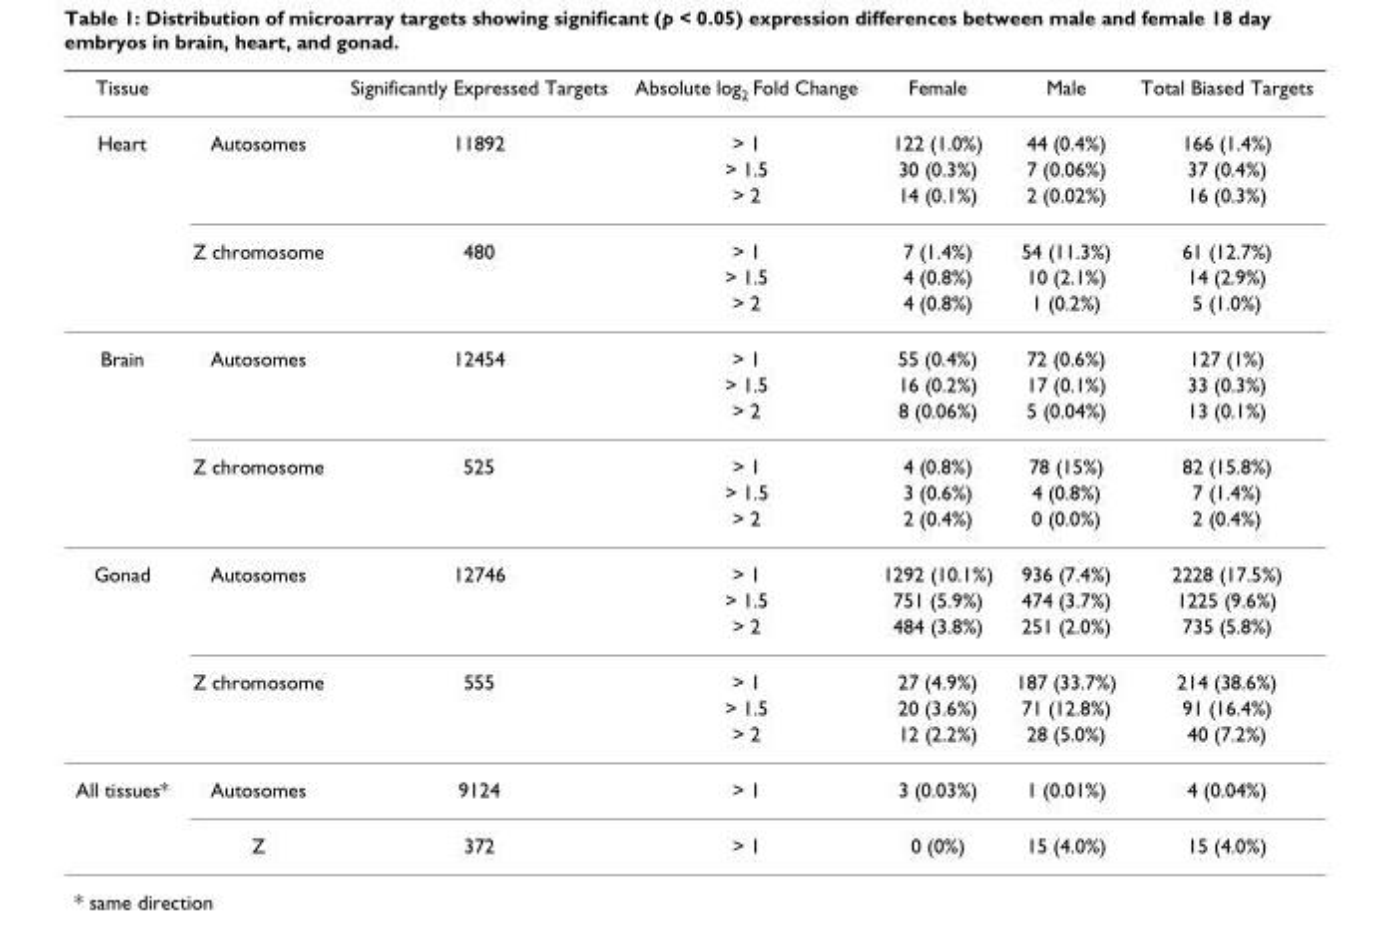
<table><thead><tr><td>Tissue</td><td></td><td>Significantly Expressed Targets</td><td>Absolute log<sub>2</sub> Fold Change</td><td>Female</td><td>Male</td><td>Total Biased Targets</td></tr></thead><tbody><tr><td rowspan="6">Heart</td><td>Autosomes</td><td>11892</td><td>&gt; 1</td><td>122 (1.0%)</td><td>44 (0.4%)</td><td>166 (1.4%)</td></tr><tr><td></td><td></td><td>&gt; 1.5</td><td>30 (0.3%)</td><td>7 (0.06%)</td><td>37 (0.4%)</td></tr><tr><td></td><td></td><td>&gt; 2</td><td>14 (0.1%)</td><td>2 (0.02%)</td><td>16 (0.3%)</td></tr><tr><td>Z chromosome</td><td>480</td><td>&gt; 1</td><td>7 (1.4%)</td><td>54 (11.3%)</td><td>61 (12.7%)</td></tr><tr><td></td><td></td><td>&gt; 1.5</td><td>4 (0.8%)</td><td>10 (2.1%)</td><td>14 (2.9%)</td></tr><tr><td></td><td></td><td>&gt; 2</td><td>4 (0.8%)</td><td>1 (0.2%)</td><td>5 (1.0%)</td></tr><tr><td rowspan="6">Brain</td><td>Autosomes</td><td>12454</td><td>&gt; 1</td><td>55 (0.4%)</td><td>72 (0.6%)</td><td>127 (1%)</td></tr><tr><td></td><td></td><td>&gt; 1.5</td><td>16 (0.2%)</td><td>17 (0.1%)</td><td>33 (0.3%)</td></tr><tr><td></td><td></td><td>&gt; 2</td><td>8 (0.06%)</td><td>5 (0.04%)</td><td>13 (0.1%)</td></tr><tr><td>Z chromosome</td><td>525</td><td>&gt; 1</td><td>4 (0.8%)</td><td>78 (15%)</td><td>82 (15.8%)</td></tr><tr><td></td><td></td><td>&gt; 1.5</td><td>3 (0.6%)</td><td>4 (0.8%)</td><td>7 (1.4%)</td></tr><tr><td></td><td></td><td>&gt; 2</td><td>2 (0.4%)</td><td>0 (0.0%)</td><td>2 (0.4%)</td></tr><tr><td rowspan="6">Gonad</td><td>Autosomes</td><td>12746</td><td>&gt; 1</td><td>1292 (10.1%)</td><td>936 (7.4%)</td><td>2228 (17.5%)</td></tr><tr><td></td><td></td><td>&gt; 1.5</td><td>751 (5.9%)</td><td>474 (3.7%)</td><td>1225 (9.6%)</td></tr><tr><td></td><td></td><td>&gt; 2</td><td>484 (3.8%)</td><td>251 (2.0%)</td><td>735 (5.8%)</td></tr><tr><td>Z chromosome</td><td>555</td><td>&gt; 1</td><td>27 (4.9%)</td><td>187 (33.7%)</td><td>214 (38.6%)</td></tr><tr><td></td><td></td><td>&gt; 1.5</td><td>20 (3.6%)</td><td>71 (12.8%)</td><td>91 (16.4%)</td></tr><tr><td></td><td></td><td>&gt; 2</td><td>12 (2.2%)</td><td>28 (5.0%)</td><td>40 (7.2%)</td></tr><tr><td rowspan="2">All tissues*</td><td>Autosomes</td><td>9124</td><td>&gt; 1</td><td>3 (0.03%)</td><td>1 (0.01%)</td><td>4 (0.04%)</td></tr><tr><td>Z</td><td>372</td><td>&gt; 1</td><td>0 (0%)</td><td>15 (4.0%)</td><td>15 (4.0%)</td></tr></tbody></table>